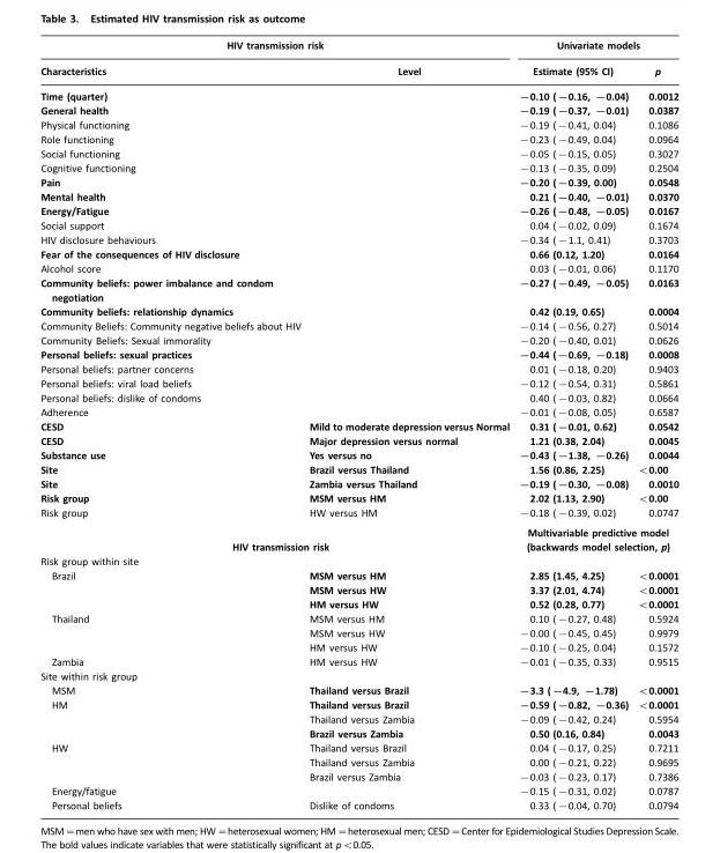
<table><thead><tr><td colspan="2">HIV transmission risk</td><td colspan="2">Univariate models</td></tr><tr><td>Characteristics</td><td>Level</td><td>Estimate (95% CI)</td><td>p</td></tr></thead><tbody><tr><td>Time (quarter)</td><td></td><td>−0.10 (−0.16, −0.04)</td><td>0.0012</td></tr><tr><td>General health</td><td></td><td>−0.19 (−0.37, −0.01)</td><td>0.0387</td></tr><tr><td>Physical functioning</td><td></td><td>−0.19 (−0.41, 0.04)</td><td>0.1086</td></tr><tr><td>Role functioning</td><td></td><td>−0.23 (−0.49, 0.04)</td><td>0.0964</td></tr><tr><td>Social functioning</td><td></td><td>−0.05 (−0.15, 0.05)</td><td>0.3027</td></tr><tr><td>Cognitive functioning</td><td></td><td>−0.13 (−0.35, 0.09)</td><td>0.2504</td></tr><tr><td>Pain</td><td></td><td>−0.20 (−0.39, 0.00)</td><td>0.0548</td></tr><tr><td>Mental health</td><td></td><td>0.21 (−0.40, −0.01)</td><td>0.0370</td></tr><tr><td>Energy/Fatigue</td><td></td><td>−0.26 (−0.48, −0.05)</td><td>0.0167</td></tr><tr><td>Social support</td><td></td><td>0.04 (−0.02, 0.09)</td><td>0.1674</td></tr><tr><td>HIV disclosure behaviours</td><td></td><td>−0.34 (−1.1, 0.41)</td><td>0.3703</td></tr><tr><td>Fear of the consequences of HIV disclosure</td><td></td><td>0.66 (0.12, 1.20)</td><td>0.0164</td></tr><tr><td>Alcohol score</td><td></td><td>0.03 (−0.01, 0.06)</td><td>0.1170</td></tr><tr><td>Community beliefs: power imbalance and condom negotiation</td><td></td><td>−0.27 (−0.49, −0.05)</td><td>0.0163</td></tr><tr><td>Community beliefs: relationship dynamics</td><td></td><td>0.42 (0.19, 0.65)</td><td>0.0004</td></tr><tr><td>Community Beliefs: Community negative beliefs about HIV</td><td></td><td>−0.14 (−0.56, 0.27)</td><td>0.5014</td></tr><tr><td>Community Beliefs: Sexual immorality</td><td></td><td>−0.20 (−0.40, 0.01)</td><td>0.0626</td></tr><tr><td>Personal beliefs: sexual practices</td><td></td><td>−0.44 (−0.69, −0.18)</td><td>0.0008</td></tr><tr><td>Personal beliefs: partner concerns</td><td></td><td>0.01 (−0.18, 0.20)</td><td>0.9403</td></tr><tr><td>Personal beliefs: viral load beliefs</td><td></td><td>−0.12 (−0.54, 0.31)</td><td>0.5861</td></tr><tr><td>Personal beliefs: dislike of condoms</td><td></td><td>0.40 (−0.03, 0.82)</td><td>0.0664</td></tr><tr><td>Adherence</td><td></td><td>−0.01 (−0.08, 0.05)</td><td>0.6587</td></tr><tr><td>CESD</td><td>Mild to moderate depression versus Normal</td><td>0.31 (−0.01, 0.62)</td><td>0.0542</td></tr><tr><td>CESD</td><td>Major depression versus normal</td><td>1.21 (0.38, 2.04)</td><td>0.0045</td></tr><tr><td>Substance use</td><td>Yes versus no</td><td>−0.43 (−1.38, −0.26)</td><td>0.0044</td></tr><tr><td>Site</td><td>Brazil versus Thailand</td><td>1.56 (0.86, 2.25)</td><td>&lt;0.00</td></tr><tr><td>Site</td><td>Zambia versus Thailand</td><td>−0.19 (−0.30, −0.08)</td><td>0.0010</td></tr><tr><td>Risk group</td><td>MSM versus HM</td><td>2.02 (1.13, 2.90)</td><td>&lt;0.00</td></tr><tr><td>Risk group</td><td>HW versus HM</td><td>−0.18 (−0.39, 0.02)</td><td>0.0747</td></tr><tr><td colspan="2">HIV transmission risk</td><td colspan="2">Multivariable predictive model (backwards model selection, p)</td></tr><tr><td colspan="4">Risk group within site</td></tr><tr><td rowspan="3">Brazil</td><td>MSM versus HM</td><td>2.85 (1.45, 4.25)</td><td>&lt;0.0001</td></tr><tr><td>MSM versus HW</td><td>3.37 (2.01, 4.74)</td><td>&lt;0.0001</td></tr><tr><td>HM versus HW</td><td>0.52 (0.28, 0.77)</td><td>&lt;0.0001</td></tr><tr><td rowspan="3">Thailand</td><td>MSM versus HM</td><td>0.10 (−0.27, 0.48)</td><td>0.5924</td></tr><tr><td>MSM versus HW</td><td>−0.00 (−0.45, 0.45)</td><td>0.9979</td></tr><tr><td>HM versus HW</td><td>−0.10 (−0.25, 0.04)</td><td>0.1572</td></tr><tr><td>Zambia</td><td>HM versus HW</td><td>−0.01 (−0.35, 0.33)</td><td>0.9515</td></tr><tr><td colspan="4">Site within risk group</td></tr><tr><td>MSM</td><td>Thailand versus Brazil</td><td>−3.3 (−4.9, −1.78)</td><td>&lt;0.0001</td></tr><tr><td rowspan="3">HM</td><td>Thailand versus Brazil</td><td>−0.59 (−0.82, −0.36)</td><td>&lt;0.0001</td></tr><tr><td>Thailand versus Zambia</td><td>−0.09 (−0.42, 0.24)</td><td>0.5954</td></tr><tr><td>Brazil versus Zambia</td><td>0.50 (0.16, 0.84)</td><td>0.0043</td></tr><tr><td rowspan="3">HW</td><td>Thailand versus Brazil</td><td>0.04 (−0.17, 0.25)</td><td>0.7211</td></tr><tr><td>Thailand versus Zambia</td><td>0.00 (−0.21, 0.22)</td><td>0.9695</td></tr><tr><td>Brazil versus Zambia</td><td>−0.03 (−0.23, 0.17)</td><td>0.7386</td></tr><tr><td>Energy/fatigue</td><td></td><td>−0.15 (−0.31, 0.02)</td><td>0.0787</td></tr><tr><td>Personal beliefs</td><td>Dislike of condoms</td><td>0.33 (−0.04, 0.70)</td><td>0.0794</td></tr></tbody></table>